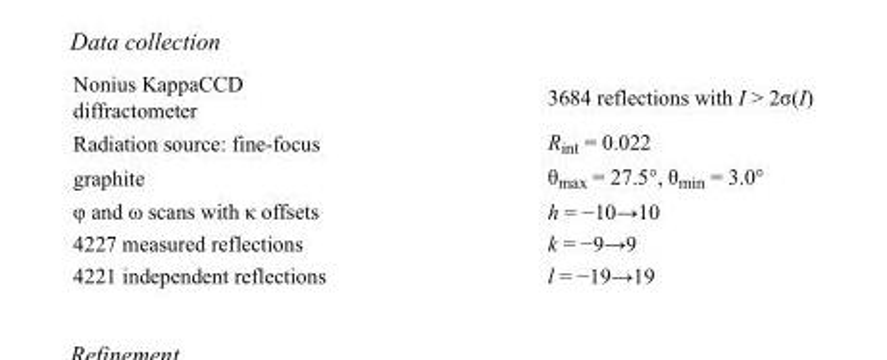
<table><tbody><tr><td>Nonius KappaCCD diffractometer</td><td>3684 reflections with I &gt; 2σ(I)</td></tr><tr><td>Radiation source: fine-focus</td><td>R<sub>int</sub> = 0.022</td></tr><tr><td>graphite</td><td>θ<sub>max</sub> = 27.5°, θ<sub>min</sub> = 3.0°</td></tr><tr><td>φ and ω scans with κ offsets</td><td>h = −10→10</td></tr><tr><td>4227 measured reflections</td><td>k = −9→9</td></tr><tr><td>4221 independent reflections</td><td>l = −19→19</td></tr></tbody></table>